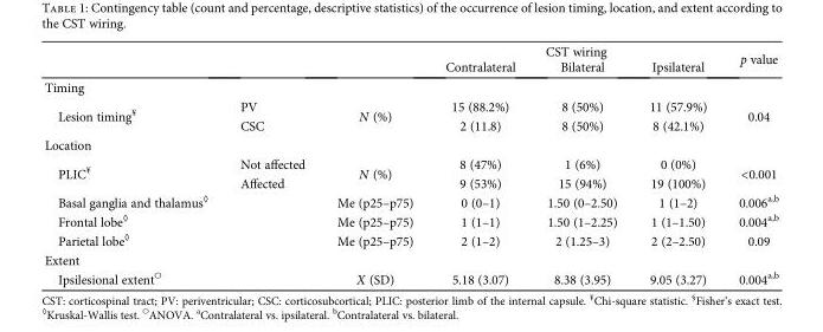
<table><thead><tr><td rowspan="2"></td><td rowspan="2"></td><td rowspan="2"></td><td colspan="3">CST wiring</td><td rowspan="2">p value</td></tr><tr><td>Contralateral</td><td>Bilateral</td><td>Ipsilateral</td></tr></thead><tbody><tr><td colspan="7">Timing</td></tr><tr><td rowspan="2">Lesion timing<sup>¥</sup></td><td>PV</td><td rowspan="2">N (%)</td><td>15 (88.2%)</td><td>8 (50%)</td><td>11 (57.9%)</td><td rowspan="2">0.04</td></tr><tr><td>CSC</td><td>2 (11.8)</td><td>8 (50%)</td><td>8 (42.1%)</td></tr><tr><td colspan="7">Location</td></tr><tr><td rowspan="2">PLIC<sup>¥</sup></td><td>Not affected</td><td rowspan="2">N (%)</td><td>8 (47%)</td><td>1 (6%)</td><td>0 (0%)</td><td rowspan="2">&lt;0.001</td></tr><tr><td>Affected</td><td>9 (53%)</td><td>15 (94%)</td><td>19 (100%)</td></tr><tr><td>Basal ganglia and thalamus<sup>◊</sup></td><td></td><td>Me (p25–p75)</td><td>0 (0–1)</td><td>1.50 (0–2.50)</td><td>1 (1–2)</td><td>0.006<sup>a,b</sup></td></tr><tr><td>Frontal lobe<sup>◊</sup></td><td></td><td>Me (p25–p75)</td><td>1 (1–1)</td><td>1.50 (1–2.25)</td><td>1 (1–1.50)</td><td>0.004<sup>a,b</sup></td></tr><tr><td>Parietal lobe<sup>◊</sup></td><td></td><td>Me (p25–p75)</td><td>2 (1–2)</td><td>2 (1.25–3)</td><td>2 (2–2.50)</td><td>0.09</td></tr><tr><td colspan="7">Extent</td></tr><tr><td>Ipsilesional extent<sup>○</sup></td><td></td><td>X (SD)</td><td>5.18 (3.07)</td><td>8.38 (3.95)</td><td>9.05 (3.27)</td><td>0.004<sup>a,b</sup></td></tr></tbody></table>